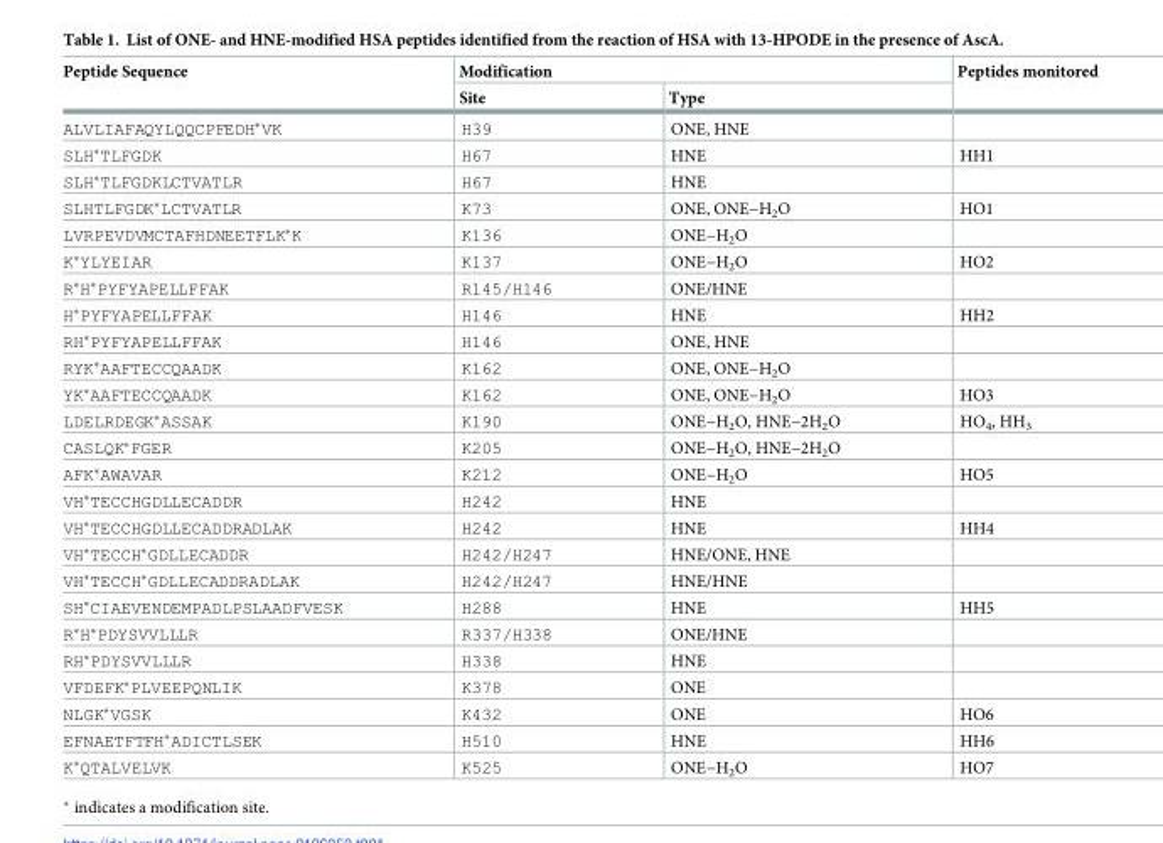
<table><thead><tr><td rowspan="2">Peptide Sequence</td><td colspan="2">Modification</td><td rowspan="2">Peptides monitored</td></tr><tr><td>Site</td><td>Type</td></tr></thead><tbody><tr><td>ALVLIAFAQYLQQCPFEDH*VK</td><td>H39</td><td>ONE, HNE</td><td></td></tr><tr><td>SLH*TLFGDK</td><td>H67</td><td>HNE</td><td>HH1</td></tr><tr><td>SLH*TLFGDKLCTVATLR</td><td>H67</td><td>HNE</td><td></td></tr><tr><td>SLHTLFGDK*LCTVATLR</td><td>K73</td><td>ONE, ONE−H<sub>2</sub>O</td><td>HO1</td></tr><tr><td>LVRPEVDVMCTAFHDNEETFLK*K</td><td>K136</td><td>ONE−H<sub>2</sub>O</td><td></td></tr><tr><td>K*YLYEIAR</td><td>K137</td><td>ONE−H<sub>2</sub>O</td><td>HO2</td></tr><tr><td>R*H*PYFYAPELLFFAK</td><td>R145/H146</td><td>ONE/HNE</td><td></td></tr><tr><td>H*PYFYAPELLFFAK</td><td>H146</td><td>HNE</td><td>HH2</td></tr><tr><td>RH*PYFYAPELLFFAK</td><td>H146</td><td>ONE, HNE</td><td></td></tr><tr><td>RYK*AAFTECCQAADK</td><td>K162</td><td>ONE, ONE−H<sub>2</sub>O</td><td></td></tr><tr><td>YK*AAFTECCQAADK</td><td>K162</td><td>ONE, ONE−H<sub>2</sub>O</td><td>HO3</td></tr><tr><td>LDELRDEGK*ASSAK</td><td>K190</td><td>ONE−H<sub>2</sub>O, HNE−2H<sub>2</sub>O</td><td>HO<sub>4</sub>, HH<sub>3</sub></td></tr><tr><td>CASLQK*FGER</td><td>K205</td><td>ONE−H<sub>2</sub>O, HNE−2H<sub>2</sub>O</td><td></td></tr><tr><td>AFK*AWAVAR</td><td>K212</td><td>ONE−H<sub>2</sub>O</td><td>HO5</td></tr><tr><td>VH*TECCHGDLLECADDR</td><td>H242</td><td>HNE</td><td></td></tr><tr><td>VH*TECCHGDLLECADDRADLAK</td><td>H242</td><td>HNE</td><td>HH4</td></tr><tr><td>VH*TECCH*GDLLECADDR</td><td>H242/H247</td><td>HNE/ONE, HNE</td><td></td></tr><tr><td>VH*TECCH*GDLLECADDRADLAK</td><td>H242/H247</td><td>HNE/HNE</td><td></td></tr><tr><td>SH*CIAEVENDEMPADLPSLAADFVESK</td><td>H288</td><td>HNE</td><td>HH5</td></tr><tr><td>R*H*PDYSVVLLLR</td><td>R337/H338</td><td>ONE/HNE</td><td></td></tr><tr><td>RH*PDYSVVLLLR</td><td>H338</td><td>HNE</td><td></td></tr><tr><td>VFDEFK*PLVEEPQNLIK</td><td>K378</td><td>ONE</td><td></td></tr><tr><td>NLGK*VGSK</td><td>K432</td><td>ONE</td><td>HO6</td></tr><tr><td>EFNAETFTFH*ADICTLSEK</td><td>H510</td><td>HNE</td><td>HH6</td></tr><tr><td>K*QTALVELVK</td><td>K525</td><td>ONE−H<sub>2</sub>O</td><td>HO7</td></tr></tbody></table>